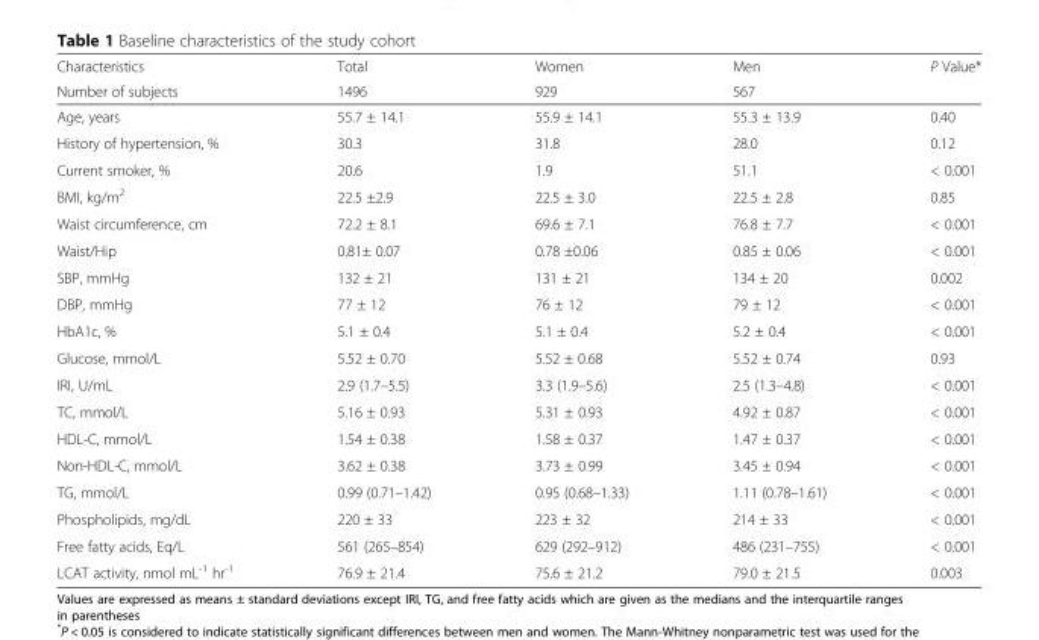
<table><thead><tr><td rowspan="2">Characteristics Number of subjects</td><td rowspan="2">Total 1496</td><td rowspan="2">Women 929</td><td rowspan="2">Men 567</td><td rowspan="2">P Value*</td></tr><tr></tr></thead><tbody><tr><td>Age, years</td><td>55.7 ± 14.1</td><td>55.9 ± 14.1</td><td>55.3 ± 13.9</td><td>0.40</td></tr><tr><td>History of hypertension, %</td><td>30.3</td><td>31.8</td><td>28.0</td><td>0.12</td></tr><tr><td>Current smoker, %</td><td>20.6</td><td>1.9</td><td>51.1</td><td>&lt; 0.001</td></tr><tr><td>BMI, kg/m<sup>2</sup></td><td>22.5 ±2.9</td><td>22.5 ± 3.0</td><td>22.5 ± 2.8</td><td>0.85</td></tr><tr><td>Waist circumference, cm</td><td>72.2 ± 8.1</td><td>69.6 ± 7.1</td><td>76.8 ± 7.7</td><td>&lt; 0.001</td></tr><tr><td>Waist/Hip</td><td>0.81± 0.07</td><td>0.78 ±0.06</td><td>0.85 ± 0.06</td><td>&lt; 0.001</td></tr><tr><td>SBP, mmHg</td><td>132 ± 21</td><td>131 ± 21</td><td>134 ± 20</td><td>0.002</td></tr><tr><td>DBP, mmHg</td><td>77 ± 12</td><td>76 ± 12</td><td>79 ± 12</td><td>&lt; 0.001</td></tr><tr><td>HbA1c, %</td><td>5.1 ± 0.4</td><td>5.1 ± 0.4</td><td>5.2 ± 0.4</td><td>&lt; 0.001</td></tr><tr><td>Glucose, mmol/L</td><td>5.52 ± 0.70</td><td>5.52 ± 0.68</td><td>5.52 ± 0.74</td><td>0.93</td></tr><tr><td>IRI, U/mL</td><td>2.9 (1.7–5.5)</td><td>3.3 (1.9–5.6)</td><td>2.5 (1.3–4.8)</td><td>&lt; 0.001</td></tr><tr><td>TC, mmol/L</td><td>5.16 ± 0.93</td><td>5.31 ± 0.93</td><td>4.92 ± 0.87</td><td>&lt; 0.001</td></tr><tr><td>HDL-C, mmol/L</td><td>1.54 ± 0.38</td><td>1.58 ± 0.37</td><td>1.47 ± 0.37</td><td>&lt; 0.001</td></tr><tr><td>Non-HDL-C, mmol/L</td><td>3.62 ± 0.38</td><td>3.73 ± 0.99</td><td>3.45 ± 0.94</td><td>&lt; 0.001</td></tr><tr><td>TG, mmol/L</td><td>0.99 (0.71–1.42)</td><td>0.95 (0.68–1.33)</td><td>1.11 (0.78–1.61)</td><td>&lt; 0.001</td></tr><tr><td>Phospholipids, mg/dL</td><td>220 ± 33</td><td>223 ± 32</td><td>214 ± 33</td><td>&lt; 0.001</td></tr><tr><td>Free fatty acids, Eq/L</td><td>561 (265–854)</td><td>629 (292–912)</td><td>486 (231–755)</td><td>&lt; 0.001</td></tr><tr><td>LCAT activity, nmol mL<sup>-1</sup> hr<sup>-1</sup></td><td>76.9 ± 21.4</td><td>75.6 ± 21.2</td><td>79.0 ± 21.5</td><td>0.003</td></tr></tbody></table>